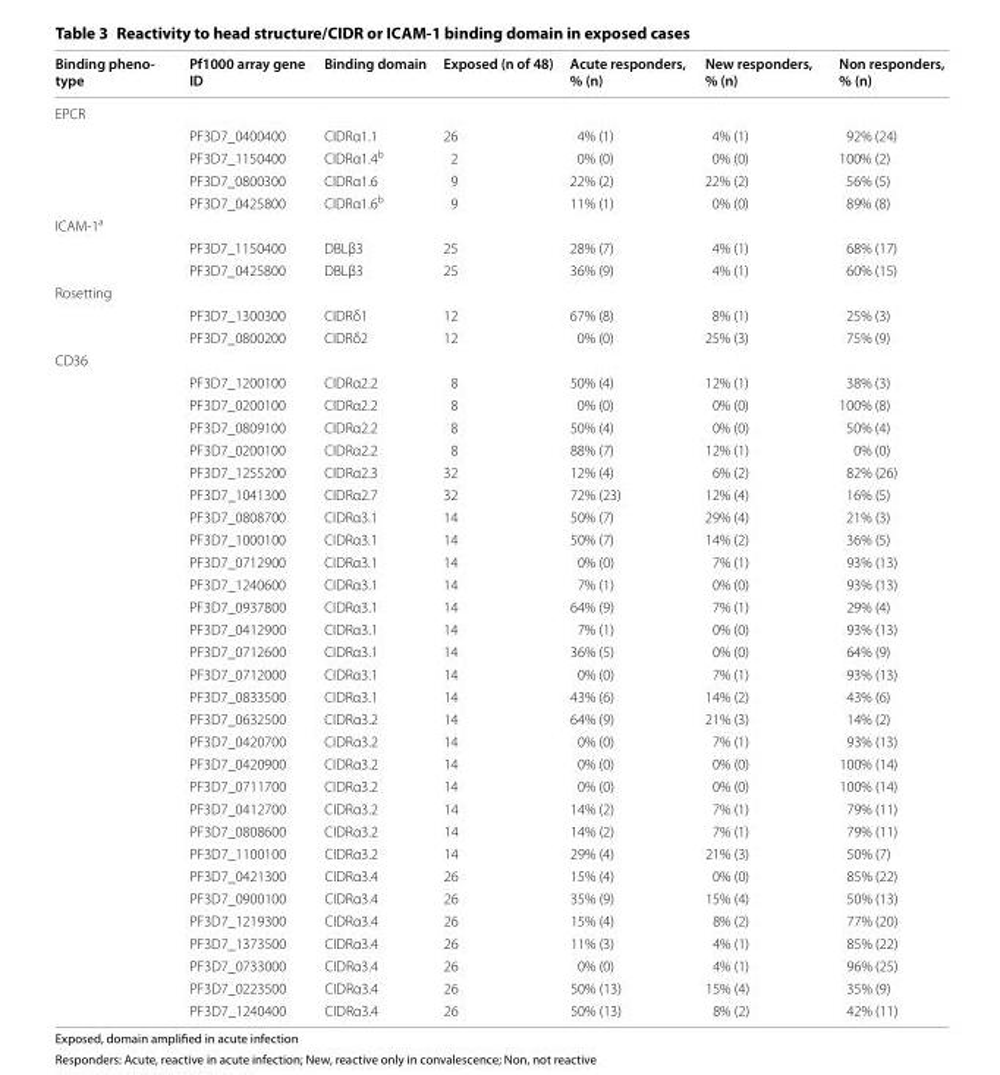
<table><thead><tr><td>Binding pheno- type</td><td>Pf1000 array gene ID</td><td>Binding domain</td><td>Exposed (n of 48)</td><td>Acute responders, % (n)</td><td>New responders, % (n)</td><td>Non responders, % (n)</td></tr></thead><tbody><tr><td colspan="7">EPCR</td></tr><tr><td></td><td>PF3D7_0400400</td><td>CIDRα1.1</td><td>26</td><td>4% (1)</td><td>4% (1)</td><td>92% (24)</td></tr><tr><td></td><td>PF3D7_1150400</td><td>CIDRα1.4<sup>b</sup></td><td>2</td><td>0% (0)</td><td>0% (0)</td><td>100% (2)</td></tr><tr><td></td><td>PF3D7_0800300</td><td>CIDRα1.6</td><td>9</td><td>22% (2)</td><td>22% (2)</td><td>56% (5)</td></tr><tr><td></td><td>PF3D7_0425800</td><td>CIDRα1.6<sup>b</sup></td><td>9</td><td>11% (1)</td><td>0% (0)</td><td>89% (8)</td></tr><tr><td colspan="7">ICAM-1<sup>a</sup></td></tr><tr><td></td><td>PF3D7_1150400</td><td>DBLβ3</td><td>25</td><td>28% (7)</td><td>4% (1)</td><td>68% (17)</td></tr><tr><td></td><td>PF3D7_0425800</td><td>DBLβ3</td><td>25</td><td>36% (9)</td><td>4% (1)</td><td>60% (15)</td></tr><tr><td colspan="7">Rosetting</td></tr><tr><td></td><td>PF3D7_1300300</td><td>CIDRδ1</td><td>12</td><td>67% (8)</td><td>8% (1)</td><td>25% (3)</td></tr><tr><td></td><td>PF3D7_0800200</td><td>CIDRδ2</td><td>12</td><td>0% (0)</td><td>25% (3)</td><td>75% (9)</td></tr><tr><td colspan="7">CD36</td></tr><tr><td></td><td>PF3D7_1200100</td><td>CIDRα2.2</td><td>8</td><td>50% (4)</td><td>12% (1)</td><td>38% (3)</td></tr><tr><td></td><td>PF3D7_0200100</td><td>CIDRα2.2</td><td>8</td><td>0% (0)</td><td>0% (0)</td><td>100% (8)</td></tr><tr><td></td><td>PF3D7_0809100</td><td>CIDRα2.2</td><td>8</td><td>50% (4)</td><td>0% (0)</td><td>50% (4)</td></tr><tr><td></td><td>PF3D7_0200100</td><td>CIDRα2.2</td><td>8</td><td>88% (7)</td><td>12% (1)</td><td>0% (0)</td></tr><tr><td></td><td>PF3D7_1255200</td><td>CIDRα2.3</td><td>32</td><td>12% (4)</td><td>6% (2)</td><td>82% (26)</td></tr><tr><td></td><td>PF3D7_1041300</td><td>CIDRα2.7</td><td>32</td><td>72% (23)</td><td>12% (4)</td><td>16% (5)</td></tr><tr><td></td><td>PF3D7_0808700</td><td>CIDRα3.1</td><td>14</td><td>50% (7)</td><td>29% (4)</td><td>21% (3)</td></tr><tr><td></td><td>PF3D7_1000100</td><td>CIDRα3.1</td><td>14</td><td>50% (7)</td><td>14% (2)</td><td>36% (5)</td></tr><tr><td></td><td>PF3D7_0712900</td><td>CIDRα3.1</td><td>14</td><td>0% (0)</td><td>7% (1)</td><td>93% (13)</td></tr><tr><td></td><td>PF3D7_1240600</td><td>CIDRα3.1</td><td>14</td><td>7% (1)</td><td>0% (0)</td><td>93% (13)</td></tr><tr><td></td><td>PF3D7_0937800</td><td>CIDRα3.1</td><td>14</td><td>64% (9)</td><td>7% (1)</td><td>29% (4)</td></tr><tr><td></td><td>PF3D7_0412900</td><td>CIDRα3.1</td><td>14</td><td>7% (1)</td><td>0% (0)</td><td>93% (13)</td></tr><tr><td></td><td>PF3D7_0712600</td><td>CIDRα3.1</td><td>14</td><td>36% (5)</td><td>0% (0)</td><td>64% (9)</td></tr><tr><td></td><td>PF3D7_0712000</td><td>CIDRα3.1</td><td>14</td><td>0% (0)</td><td>7% (1)</td><td>93% (13)</td></tr><tr><td></td><td>PF3D7_0833500</td><td>CIDRα3.1</td><td>14</td><td>43% (6)</td><td>14% (2)</td><td>43% (6)</td></tr><tr><td></td><td>PF3D7_0632500</td><td>CIDRα3.2</td><td>14</td><td>64% (9)</td><td>21% (3)</td><td>14% (2)</td></tr><tr><td></td><td>PF3D7_0420700</td><td>CIDRα3.2</td><td>14</td><td>0% (0)</td><td>7% (1)</td><td>93% (13)</td></tr><tr><td></td><td>PF3D7_0420900</td><td>CIDRα3.2</td><td>14</td><td>0% (0)</td><td>0% (0)</td><td>100% (14)</td></tr><tr><td></td><td>PF3D7_0711700</td><td>CIDRα3.2</td><td>14</td><td>0% (0)</td><td>0% (0)</td><td>100% (14)</td></tr><tr><td></td><td>PF3D7_0412700</td><td>CIDRα3.2</td><td>14</td><td>14% (2)</td><td>7% (1)</td><td>79% (11)</td></tr><tr><td></td><td>PF3D7_0808600</td><td>CIDRα3.2</td><td>14</td><td>14% (2)</td><td>7% (1)</td><td>79% (11)</td></tr><tr><td></td><td>PF3D7_1100100</td><td>CIDRα3.2</td><td>14</td><td>29% (4)</td><td>21% (3)</td><td>50% (7)</td></tr><tr><td></td><td>PF3D7_0421300</td><td>CIDRα3.4</td><td>26</td><td>15% (4)</td><td>0% (0)</td><td>85% (22)</td></tr><tr><td></td><td>PF3D7_0900100</td><td>CIDRα3.4</td><td>26</td><td>35% (9)</td><td>15% (4)</td><td>50% (13)</td></tr><tr><td></td><td>PF3D7_1219300</td><td>CIDRα3.4</td><td>26</td><td>15% (4)</td><td>8% (2)</td><td>77% (20)</td></tr><tr><td></td><td>PF3D7_1373500</td><td>CIDRα3.4</td><td>26</td><td>11% (3)</td><td>4% (1)</td><td>85% (22)</td></tr><tr><td></td><td>PF3D7_0733000</td><td>CIDRα3.4</td><td>26</td><td>0% (0)</td><td>4% (1)</td><td>96% (25)</td></tr><tr><td></td><td>PF3D7_0223500</td><td>CIDRα3.4</td><td>26</td><td>50% (13)</td><td>15% (4)</td><td>35% (9)</td></tr><tr><td></td><td>PF3D7_1240400</td><td>CIDRα3.4</td><td>26</td><td>50% (13)</td><td>8% (2)</td><td>42% (11)</td></tr></tbody></table>